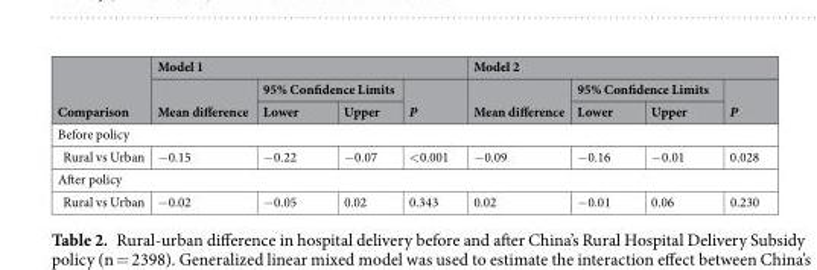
<table><thead><tr><td rowspan="3">Comparison</td><td colspan="4">Model 1</td><td colspan="4">Model 2</td></tr><tr><td rowspan="2">Mean difference</td><td colspan="2">95% Confidence Limits</td><td rowspan="2">P</td><td rowspan="2">Mean difference</td><td colspan="2">95% Confidence Limits</td><td rowspan="2">P</td></tr><tr><td>Lower</td><td>Upper</td><td>Lower</td><td>Upper</td></tr></thead><tbody><tr><td colspan="9">Before policy</td></tr><tr><td>Rural vs Urban</td><td>−0.15</td><td>−0.22</td><td>−0.07</td><td>&lt;0.001</td><td>−0.09</td><td>−0.16</td><td>−0.01</td><td>0.028</td></tr><tr><td colspan="9">After policy</td></tr><tr><td>Rural vs Urban</td><td>−0.02</td><td>−0.05</td><td>0.02</td><td>0.343</td><td>0.02</td><td>−0.01</td><td>0.06</td><td>0.230</td></tr></tbody></table>